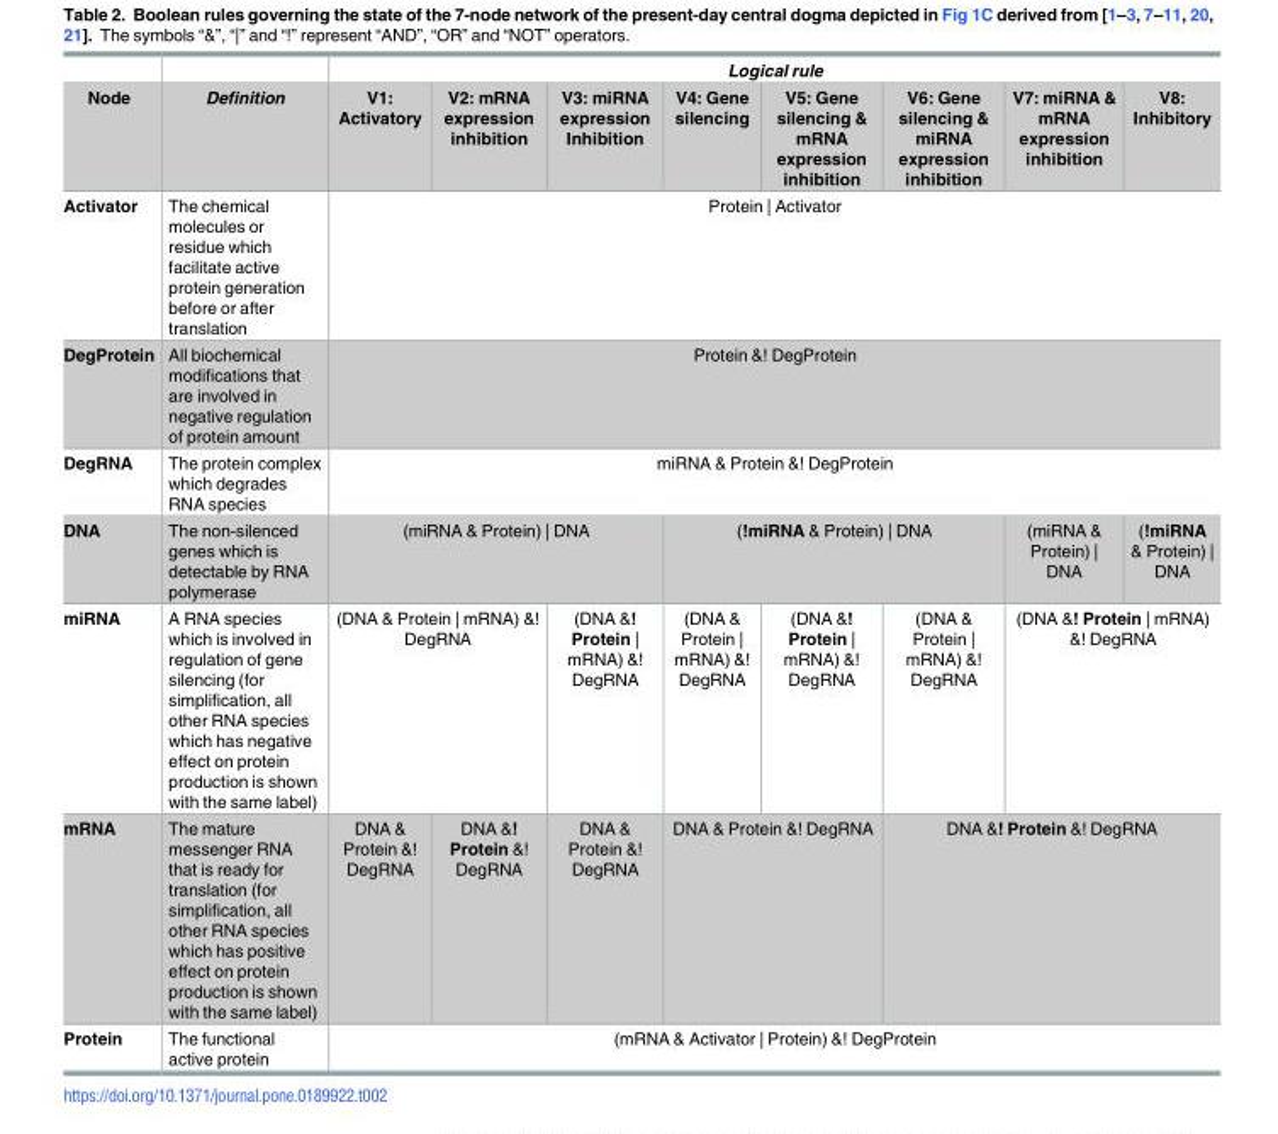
<table><thead><tr><td rowspan="2">Node</td><td rowspan="2">Definition</td><td colspan="8">Logical rule</td></tr><tr><td>V1: Activatory</td><td>V2: mRNA expression inhibition</td><td>V3: miRNA expression Inhibition</td><td>V4: Gene silencing</td><td>V5: Gene silencing &amp; mRNA expression inhibition</td><td>V6: Gene silencing &amp; miRNA expression inhibition</td><td>V7: miRNA &amp; mRNA expression inhibition</td><td>V8: Inhibitory</td></tr></thead><tbody><tr><td>Activator</td><td>The chemical molecules or residue which facilitate active protein generation before or after translation</td><td colspan="8">Protein | Activator</td></tr><tr><td>DegProtein</td><td>All biochemical modifications that are involved in negative regulation of protein amount</td><td colspan="8">Protein &amp;! DegProtein</td></tr><tr><td>DegRNA</td><td>The protein complex which degrades RNA species</td><td colspan="8">miRNA &amp; Protein &amp;! DegProtein</td></tr><tr><td>DNA</td><td>The non-silenced genes which is detectable by RNA polymerase</td><td colspan="3">(miRNA &amp; Protein) | DNA</td><td colspan="3">(!miRNA &amp; Protein) | DNA</td><td>(miRNA &amp; Protein) | DNA</td><td>(!miRNA &amp; Protein) | DNA</td></tr><tr><td>miRNA</td><td>A RNA species which is involved in regulation of gene silencing (for simplification, all other RNA species which has negative effect on protein production is shown with the same label)</td><td colspan="2">(DNA &amp; Protein | mRNA) &amp;! DegRNA</td><td>(DNA &amp;! Protein | mRNA) &amp;! DegRNA</td><td>(DNA &amp; Protein | mRNA) &amp;! DegRNA</td><td>(DNA &amp;! Protein | mRNA) &amp;! DegRNA</td><td>(DNA &amp; Protein | mRNA) &amp;! DegRNA</td><td colspan="2">(DNA &amp;! Protein | mRNA) &amp;! DegRNA</td></tr><tr><td>mRNA</td><td>The mature messenger RNA that is ready for translation (for simplification, all other RNA species which has positive effect on protein production is shown with the same label)</td><td>DNA &amp; Protein &amp;! DegRNA</td><td>DNA &amp;! Protein &amp;! DegRNA</td><td>DNA &amp; Protein &amp;! DegRNA</td><td colspan="2">DNA &amp; Protein &amp;! DegRNA</td><td colspan="3">DNA &amp;! Protein &amp;! DegRNA</td></tr><tr><td>Protein</td><td>The functional active protein</td><td colspan="8">(mRNA &amp; Activator | Protein) &amp;! DegProtein</td></tr></tbody></table>